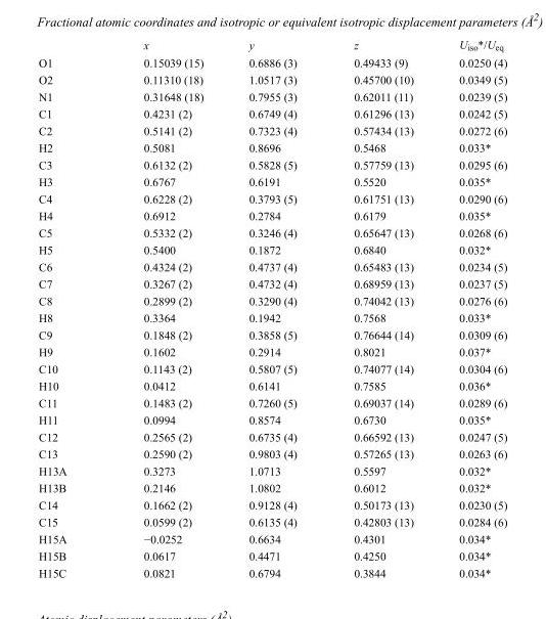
<table><thead><tr><td></td><td>x</td><td>y</td><td>z</td><td>U<sub>iso</sub>*/U<sub>eq</sub></td></tr></thead><tbody><tr><td>O1</td><td>0.15039 (15)</td><td>0.6886 (3)</td><td>0.49433 (9)</td><td>0.0250 (4)</td></tr><tr><td>O2</td><td>0.11310 (18)</td><td>1.0517 (3)</td><td>0.45700 (10)</td><td>0.0349 (5)</td></tr><tr><td>N1</td><td>0.31648 (18)</td><td>0.7955 (3)</td><td>0.62011 (11)</td><td>0.0239 (5)</td></tr><tr><td>C1</td><td>0.4231 (2)</td><td>0.6749 (4)</td><td>0.61296 (13)</td><td>0.0242 (5)</td></tr><tr><td>C2</td><td>0.5141 (2)</td><td>0.7323 (4)</td><td>0.57434 (13)</td><td>0.0272 (6)</td></tr><tr><td>H2</td><td>0.5081</td><td>0.8696</td><td>0.5468</td><td>0.033*</td></tr><tr><td>C3</td><td>0.6132 (2)</td><td>0.5828 (5)</td><td>0.57759 (13)</td><td>0.0295 (6)</td></tr><tr><td>H3</td><td>0.6767</td><td>0.6191</td><td>0.5520</td><td>0.035*</td></tr><tr><td>C4</td><td>0.6228 (2)</td><td>0.3793 (5)</td><td>0.61751 (13)</td><td>0.0290 (6)</td></tr><tr><td>H4</td><td>0.6912</td><td>0.2784</td><td>0.6179</td><td>0.035*</td></tr><tr><td>C5</td><td>0.5332 (2)</td><td>0.3246 (4)</td><td>0.65647 (13)</td><td>0.0268 (6)</td></tr><tr><td>H5</td><td>0.5400</td><td>0.1872</td><td>0.6840</td><td>0.032*</td></tr><tr><td>C6</td><td>0.4324 (2)</td><td>0.4737 (4)</td><td>0.65483 (13)</td><td>0.0234 (5)</td></tr><tr><td>C7</td><td>0.3267 (2)</td><td>0.4732 (4)</td><td>0.68959 (13)</td><td>0.0237 (5)</td></tr><tr><td>C8</td><td>0.2899 (2)</td><td>0.3290 (4)</td><td>0.74042 (13)</td><td>0.0276 (6)</td></tr><tr><td>H8</td><td>0.3364</td><td>0.1942</td><td>0.7568</td><td>0.033*</td></tr><tr><td>C9</td><td>0.1848 (2)</td><td>0.3858 (5)</td><td>0.76644 (14)</td><td>0.0309 (6)</td></tr><tr><td>H9</td><td>0.1602</td><td>0.2914</td><td>0.8021</td><td>0.037*</td></tr><tr><td>C10</td><td>0.1143 (2)</td><td>0.5807 (5)</td><td>0.74077 (14)</td><td>0.0304 (6)</td></tr><tr><td>H10</td><td>0.0412</td><td>0.6141</td><td>0.7585</td><td>0.036*</td></tr><tr><td>C11</td><td>0.1483 (2)</td><td>0.7260 (5)</td><td>0.69037 (14)</td><td>0.0289 (6)</td></tr><tr><td>H11</td><td>0.0994</td><td>0.8574</td><td>0.6730</td><td>0.035*</td></tr><tr><td>C12</td><td>0.2565 (2)</td><td>0.6735 (4)</td><td>0.66592 (13)</td><td>0.0247 (5)</td></tr><tr><td>C13</td><td>0.2590 (2)</td><td>0.9803 (4)</td><td>0.57265 (13)</td><td>0.0263 (6)</td></tr><tr><td>H13A</td><td>0.3273</td><td>1.0713</td><td>0.5597</td><td>0.032*</td></tr><tr><td>H13B</td><td>0.2146</td><td>1.0802</td><td>0.6012</td><td>0.032*</td></tr><tr><td>C14</td><td>0.1662 (2)</td><td>0.9128 (4)</td><td>0.50173 (13)</td><td>0.0230 (5)</td></tr><tr><td>C15</td><td>0.0599 (2)</td><td>0.6135 (4)</td><td>0.42803 (13)</td><td>0.0284 (6)</td></tr><tr><td>H15A</td><td>−0.0252</td><td>0.6634</td><td>0.4301</td><td>0.034*</td></tr><tr><td>H15B</td><td>0.0617</td><td>0.4471</td><td>0.4250</td><td>0.034*</td></tr><tr><td>H15C</td><td>0.0821</td><td>0.6794</td><td>0.3844</td><td>0.034*</td></tr></tbody></table>